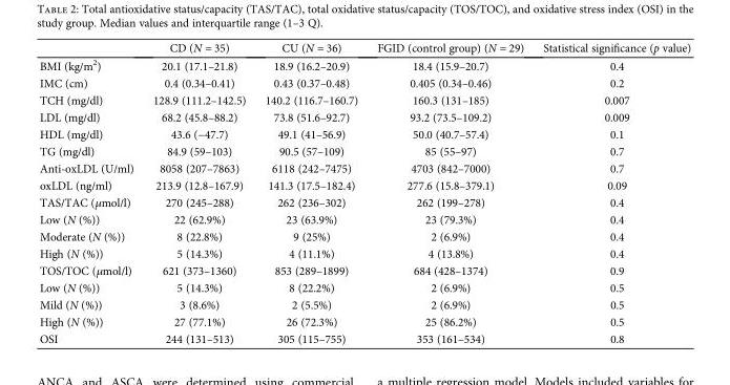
<table><thead><tr><td></td><td>CD (N = 35)</td><td>CU (N = 36)</td><td>FGID (control group) (N = 29)</td><td>Statistical significance (p value)</td></tr></thead><tbody><tr><td>BMI (kg/m<sup>2</sup>)</td><td>20.1 (17.1–21.8)</td><td>18.9 (16.2–20.9)</td><td>18.4 (15.9–20.7)</td><td>0.4</td></tr><tr><td>IMC (cm)</td><td>0.4 (0.34–0.41)</td><td>0.43 (0.37–0.48)</td><td>0.405 (0.34–0.46)</td><td>0.2</td></tr><tr><td>TCH (mg/dl)</td><td>128.9 (111.2–142.5)</td><td>140.2 (116.7–160.7)</td><td>160.3 (131–185)</td><td>0.007</td></tr><tr><td>LDL (mg/dl)</td><td>68.2 (45.8–88.2)</td><td>73.8 (51.6–92.7)</td><td>93.2 (73.5–109.2)</td><td>0.009</td></tr><tr><td>HDL (mg/dl)</td><td>43.6 (−47.7)</td><td>49.1 (41–56.9)</td><td>50.0 (40.7–57.4)</td><td>0.1</td></tr><tr><td>TG (mg/dl)</td><td>84.9 (59–103)</td><td>90.5 (57–109)</td><td>85 (55–97)</td><td>0.7</td></tr><tr><td>Anti-oxLDL (U/ml)</td><td>8058 (207–7863)</td><td>6118 (242–7475)</td><td>4703 (842–7000)</td><td>0.7</td></tr><tr><td>oxLDL (ng/ml)</td><td>213.9 (12.8–167.9)</td><td>141.3 (17.5–182.4)</td><td>277.6 (15.8–379.1)</td><td>0.09</td></tr><tr><td>TAS/TAC (μmol/l)</td><td>270 (245–288)</td><td>262 (236–302)</td><td>262 (199–278)</td><td>0.4</td></tr><tr><td>Low (N (%))</td><td>22 (62.9%)</td><td>23 (63.9%)</td><td>23 (79.3%)</td><td>0.4</td></tr><tr><td>Moderate (N (%))</td><td>8 (22.8%)</td><td>9 (25%)</td><td>2 (6.9%)</td><td>0.4</td></tr><tr><td>High (N (%))</td><td>5 (14.3%)</td><td>4 (11.1%)</td><td>4 (13.8%)</td><td>0.4</td></tr><tr><td>TOS/TOC (μmol/l)</td><td>621 (373–1360)</td><td>853 (289–1899)</td><td>684 (428–1374)</td><td>0.9</td></tr><tr><td>Low (N (%))</td><td>5 (14.3%)</td><td>8 (22.2%)</td><td>2 (6.9%)</td><td>0.5</td></tr><tr><td>Mild (N (%))</td><td>3 (8.6%)</td><td>2 (5.5%)</td><td>2 (6.9%)</td><td>0.5</td></tr><tr><td>High (N (%))</td><td>27 (77.1%)</td><td>26 (72.3%)</td><td>25 (86.2%)</td><td>0.5</td></tr><tr><td>OSI</td><td>244 (131–513)</td><td>305 (115–755)</td><td>353 (161–534)</td><td>0.8</td></tr></tbody></table>